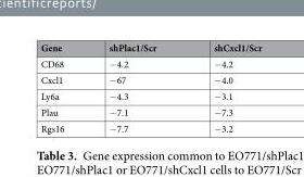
<table><thead><tr><td>Gene</td><td>shPlac1/Scr</td><td>shCxcl1/Scr</td></tr></thead><tbody><tr><td>CD68</td><td>−4.2</td><td>−4.2</td></tr><tr><td>Cxcl1</td><td>−67</td><td>−4.0</td></tr><tr><td>Ly6a</td><td>−4.3</td><td>−3.1</td></tr><tr><td>Plau</td><td>−7.1</td><td>−7.3</td></tr><tr><td>Rgs16</td><td>−7.7</td><td>−3.2</td></tr></tbody></table>